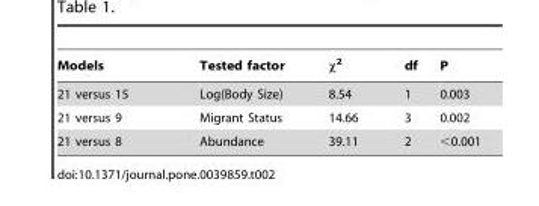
<table><thead><tr><td>Models</td><td>Tested factor</td><td>χ<sup>2</sup></td><td>df</td><td>P</td></tr></thead><tbody><tr><td>21 versus 15</td><td>Log(Body Size)</td><td>8.54</td><td>1</td><td>0.003</td></tr><tr><td>21 versus 9</td><td>Migrant Status</td><td>14.66</td><td>3</td><td>0.002</td></tr><tr><td>21 versus 8</td><td>Abundance</td><td>39.11</td><td>2</td><td>&lt;0.001</td></tr></tbody></table>